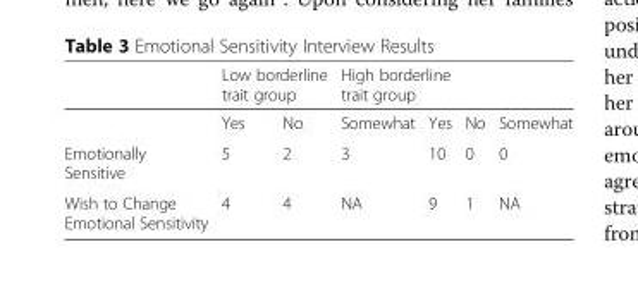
<table><thead><tr><td rowspan="2"></td><td colspan="2">Low borderline trait group</td><td colspan="4">High borderline trait group</td></tr><tr><td>Yes</td><td>No</td><td>Somewhat</td><td>Yes</td><td>No</td><td>Somewhat</td></tr></thead><tbody><tr><td>Emotionally Sensitive</td><td>5</td><td>2</td><td>3</td><td>10</td><td>0</td><td>0</td></tr><tr><td>Wish to Change Emotional Sensitivity</td><td>4</td><td>4</td><td>NA</td><td>9</td><td>1</td><td>NA</td></tr></tbody></table>